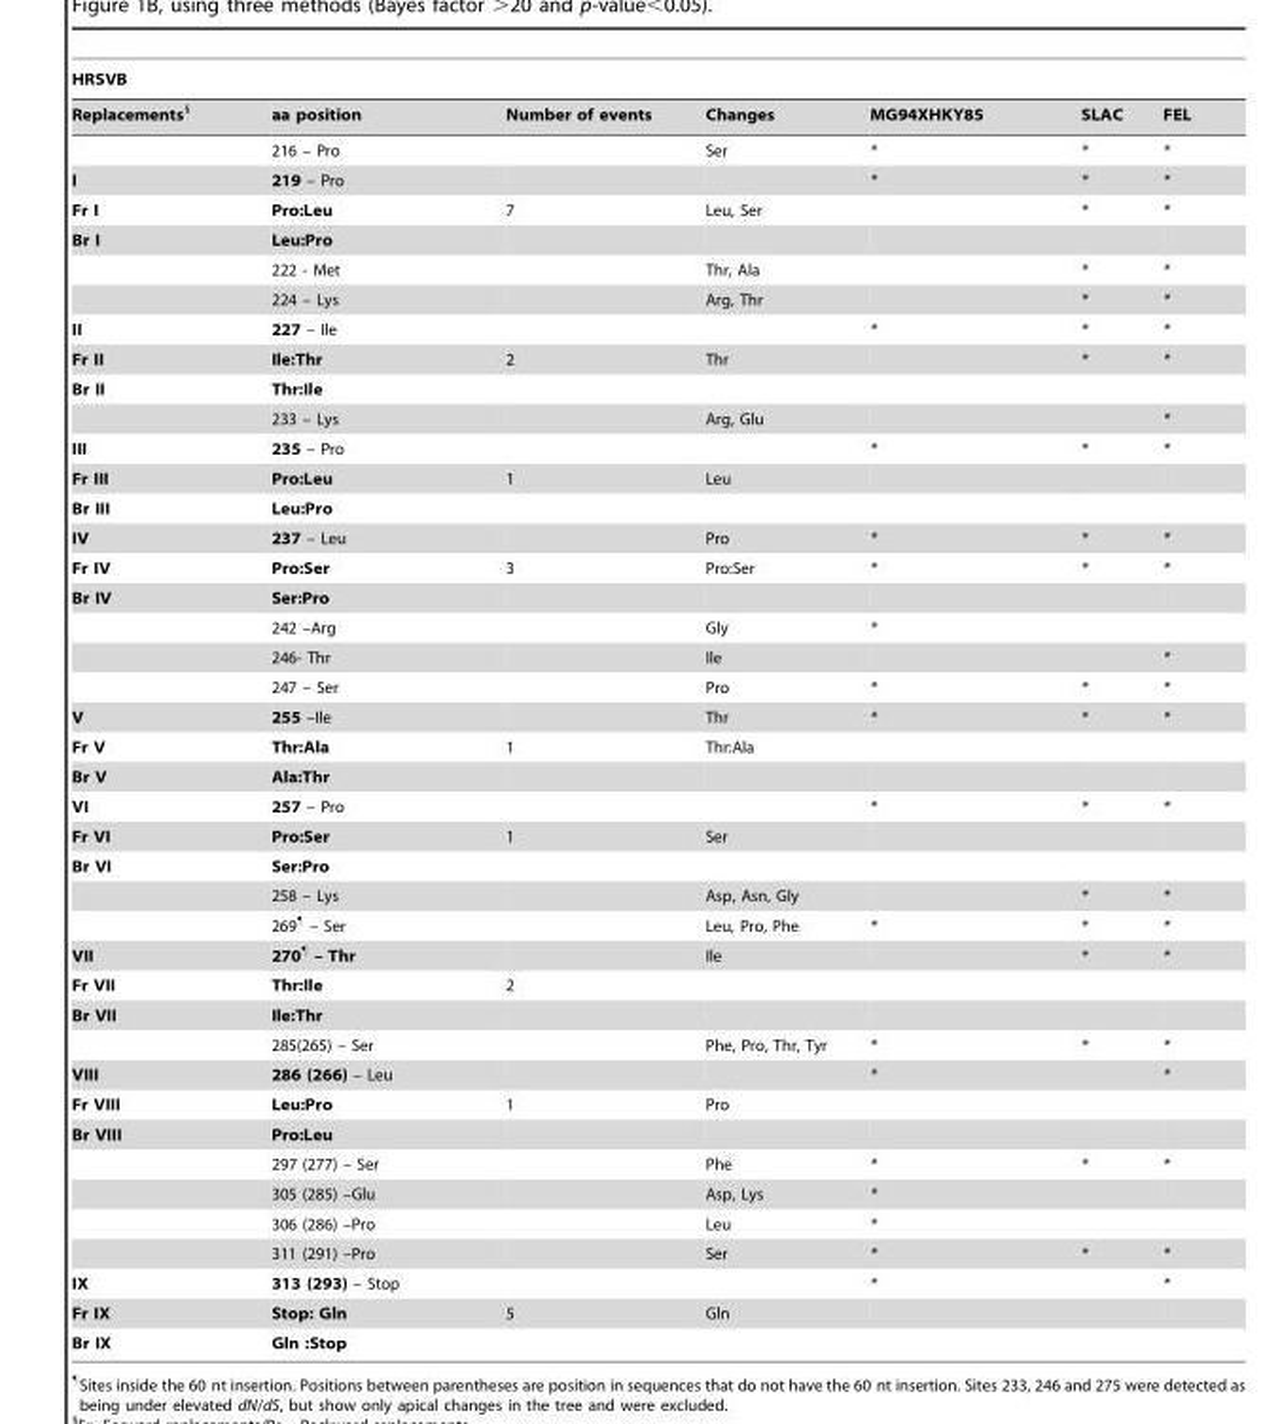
<table><thead><tr><td colspan="7">HRSVB</td></tr><tr><td>Replacements§</td><td>aa position</td><td>Number of events</td><td>Changes</td><td>MG94XHKY85</td><td>SLAC</td><td>FEL</td></tr></thead><tbody><tr><td></td><td>216 – Pro</td><td></td><td>Ser</td><td>*</td><td>*</td><td>*</td></tr><tr><td>I</td><td>219 – Pro</td><td></td><td></td><td>*</td><td>*</td><td>*</td></tr><tr><td>Fr I</td><td>Pro:Leu</td><td>7</td><td>Leu, Ser</td><td></td><td>*</td><td>*</td></tr><tr><td rowspan="3">Br I</td><td>Leu:Pro</td><td></td><td></td><td></td><td></td><td></td></tr><tr><td>222 - Met</td><td></td><td>Thr, Ala</td><td></td><td>*</td><td>*</td></tr><tr><td>224 – Lys</td><td></td><td>Arg, Thr</td><td></td><td>*</td><td>*</td></tr><tr><td>II</td><td>227 – Ile</td><td></td><td></td><td>*</td><td>*</td><td>*</td></tr><tr><td>Fr II</td><td>Ile:Thr</td><td>2</td><td>Thr</td><td></td><td>*</td><td>*</td></tr><tr><td rowspan="2">Br II</td><td>Thr:Ile</td><td></td><td></td><td></td><td></td><td></td></tr><tr><td>233 – Lys</td><td></td><td>Arg, Glu</td><td></td><td></td><td>*</td></tr><tr><td>III</td><td>235 – Pro</td><td></td><td></td><td>*</td><td>*</td><td>*</td></tr><tr><td>Fr III</td><td>Pro:Leu</td><td>1</td><td>Leu</td><td></td><td></td><td></td></tr><tr><td>Br III</td><td>Leu:Pro</td><td></td><td></td><td></td><td></td><td></td></tr><tr><td>IV</td><td>237 – Leu</td><td></td><td>Pro</td><td>*</td><td>*</td><td>*</td></tr><tr><td>Fr IV</td><td>Pro:Ser</td><td>3</td><td>Pro:Ser</td><td>*</td><td>*</td><td>*</td></tr><tr><td rowspan="4">Br IV</td><td>Ser:Pro</td><td></td><td></td><td></td><td></td><td></td></tr><tr><td>242 –Arg</td><td></td><td>Gly</td><td>*</td><td></td><td></td></tr><tr><td>246- Thr</td><td></td><td>Ile</td><td></td><td></td><td>*</td></tr><tr><td>247 – Ser</td><td></td><td>Pro</td><td>*</td><td>*</td><td>*</td></tr><tr><td>V</td><td>255 –Ile</td><td></td><td>Thr</td><td>*</td><td>*</td><td>*</td></tr><tr><td>Fr V</td><td>Thr:Ala</td><td>1</td><td>Thr:Ala</td><td></td><td></td><td></td></tr><tr><td>Br V</td><td>Ala:Thr</td><td></td><td></td><td></td><td></td><td></td></tr><tr><td>VI</td><td>257 – Pro</td><td></td><td></td><td>*</td><td>*</td><td>*</td></tr><tr><td>Fr VI</td><td>Pro:Ser</td><td>1</td><td>Ser</td><td></td><td></td><td></td></tr><tr><td rowspan="3">Br VI</td><td>Ser:Pro</td><td></td><td></td><td></td><td></td><td></td></tr><tr><td>258 – Lys</td><td></td><td>Asp, Asn, Gly</td><td></td><td>*</td><td>*</td></tr><tr><td>269¶ – Ser</td><td></td><td>Leu, Pro, Phe</td><td>*</td><td>*</td><td>*</td></tr><tr><td>VII</td><td>270¶ – Thr</td><td></td><td>Ile</td><td></td><td>*</td><td>*</td></tr><tr><td>Fr VII</td><td>Thr:Ile</td><td>2</td><td></td><td></td><td></td><td></td></tr><tr><td rowspan="2">Br VII</td><td>Ile:Thr</td><td></td><td></td><td></td><td></td><td></td></tr><tr><td>285(265) – Ser</td><td></td><td>Phe, Pro, Thr, Tyr</td><td>*</td><td>*</td><td>*</td></tr><tr><td>VIII</td><td>286 (266) – Leu</td><td></td><td></td><td>*</td><td></td><td>*</td></tr><tr><td>Fr VIII</td><td>Leu:Pro</td><td>1</td><td>Pro</td><td></td><td></td><td></td></tr><tr><td rowspan="5">Br VIII</td><td>Pro:Leu</td><td></td><td></td><td></td><td></td><td></td></tr><tr><td>297 (277) – Ser</td><td></td><td>Phe</td><td>*</td><td>*</td><td>*</td></tr><tr><td>305 (285) –Glu</td><td></td><td>Asp, Lys</td><td>*</td><td></td><td></td></tr><tr><td>306 (286) –Pro</td><td></td><td>Leu</td><td>*</td><td></td><td></td></tr><tr><td>311 (291) –Pro</td><td></td><td>Ser</td><td>*</td><td>*</td><td>*</td></tr><tr><td>IX</td><td>313 (293) – Stop</td><td></td><td></td><td>*</td><td></td><td>*</td></tr><tr><td>Fr IX</td><td>Stop: Gln</td><td>5</td><td>Gln</td><td></td><td></td><td></td></tr><tr><td>Br IX</td><td>Gln :Stop</td><td></td><td></td><td></td><td></td><td></td></tr></tbody></table>